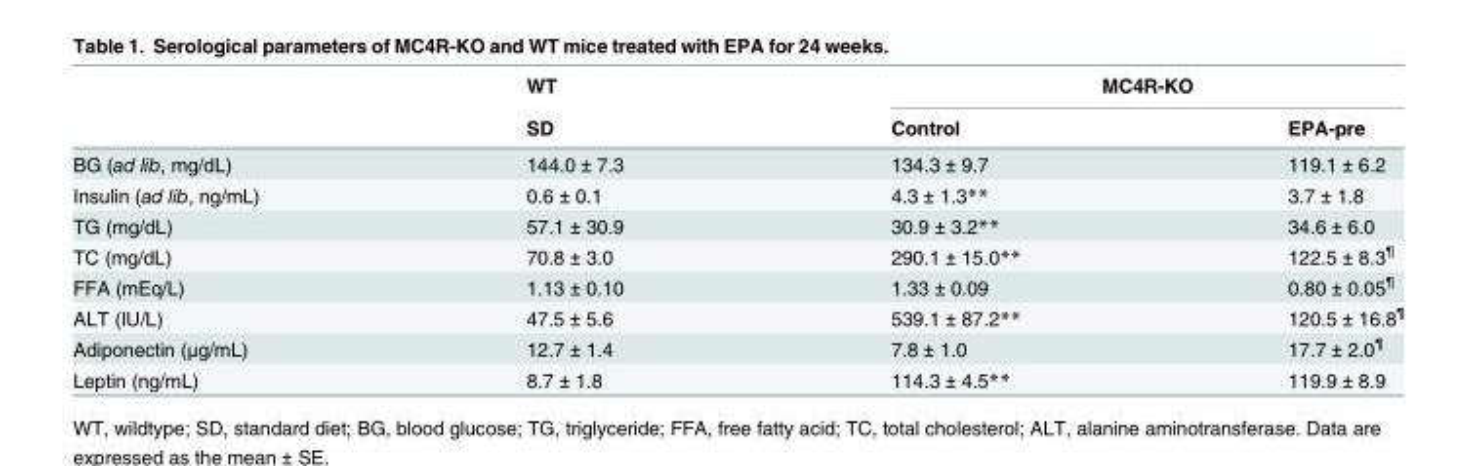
<table><thead><tr><td rowspan="2"></td><td rowspan="2">WT SD</td><td colspan="2">MC4R-KO</td></tr><tr><td>Control</td><td>EPA-pre</td></tr></thead><tbody><tr><td>BG (ad lib, mg/dL)</td><td>144.0 ± 7.3</td><td>134.3 ± 9.7</td><td>119.1 ± 6.2</td></tr><tr><td>Insulin (ad lib, ng/mL)</td><td>0.6 ± 0.1</td><td>4.3 ± 1.3**</td><td>3.7 ± 1.8</td></tr><tr><td>TG (mg/dL)</td><td>57.1 ± 30.9</td><td>30.9 ± 3.2**</td><td>34.6 ± 6.0</td></tr><tr><td>TC (mg/dL)</td><td>70.8 ± 3.0</td><td>290.1 ± 15.0**</td><td>122.5 ± 8.3<sup>¶</sup></td></tr><tr><td>FFA (mEq/L)</td><td>1.13 ± 0.10</td><td>1.33 ± 0.09</td><td>0.80 ± 0.05<sup>¶</sup></td></tr><tr><td>ALT (IU/L)</td><td>47.5 ± 5.6</td><td>539.1 ± 87.2**</td><td>120.5 ± 16.8<sup>¶</sup></td></tr><tr><td>Adiponectin (μg/mL)</td><td>12.7 ± 1.4</td><td>7.8 ± 1.0</td><td>17.7 ± 2.0<sup>¶</sup></td></tr><tr><td>Leptin (ng/mL)</td><td>8.7 ± 1.8</td><td>114.3 ± 4.5**</td><td>119.9 ± 8.9</td></tr></tbody></table>